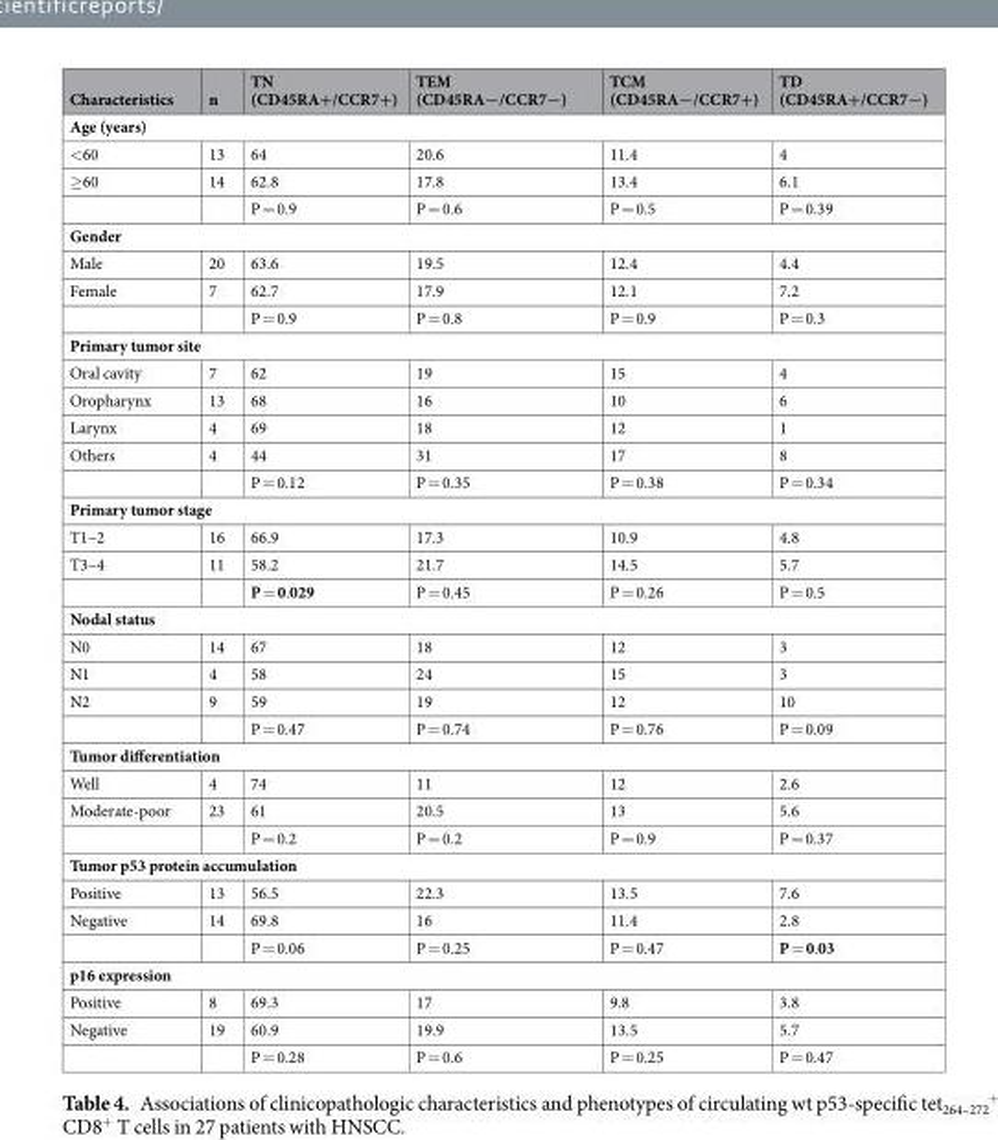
<table><thead><tr><td>Characteristics</td><td>n</td><td>TN (CD45RA+/CCR7+)</td><td>TEM (CD45RA−/CCR7−)</td><td>TCM (CD45RA−/CCR7+)</td><td>TD (CD45RA+/CCR7−)</td></tr></thead><tbody><tr><td colspan="6">Age (years)</td></tr><tr><td>&lt;60</td><td>13</td><td>64</td><td>20.6</td><td>11.4</td><td>4</td></tr><tr><td rowspan="2">≥60</td><td>14</td><td>62.8</td><td>17.8</td><td>13.4</td><td>6.1</td></tr><tr><td></td><td>P = 0.9</td><td>P = 0.6</td><td>P = 0.5</td><td>P = 0.39</td></tr><tr><td colspan="6">Gender</td></tr><tr><td>Male</td><td>20</td><td>63.6</td><td>19.5</td><td>12.4</td><td>4.4</td></tr><tr><td rowspan="2">Female</td><td>7</td><td>62.7</td><td>17.9</td><td>12.1</td><td>7.2</td></tr><tr><td></td><td>P = 0.9</td><td>P = 0.8</td><td>P = 0.9</td><td>P = 0.3</td></tr><tr><td colspan="6">Primary tumor site</td></tr><tr><td>Oral cavity</td><td>7</td><td>62</td><td>19</td><td>15</td><td>4</td></tr><tr><td>Oropharynx</td><td>13</td><td>68</td><td>16</td><td>10</td><td>6</td></tr><tr><td>Larynx</td><td>4</td><td>69</td><td>18</td><td>12</td><td>1</td></tr><tr><td rowspan="2">Others</td><td>4</td><td>44</td><td>31</td><td>17</td><td>8</td></tr><tr><td></td><td>P = 0.12</td><td>P = 0.35</td><td>P = 0.38</td><td>P = 0.34</td></tr><tr><td colspan="6">Primary tumor stage</td></tr><tr><td>T1–2</td><td>16</td><td>66.9</td><td>17.3</td><td>10.9</td><td>4.8</td></tr><tr><td rowspan="2">T3–4</td><td>11</td><td>58.2</td><td>21.7</td><td>14.5</td><td>5.7</td></tr><tr><td></td><td>P = 0.029</td><td>P = 0.45</td><td>P = 0.26</td><td>P = 0.5</td></tr><tr><td colspan="6">Nodal status</td></tr><tr><td>N0</td><td>14</td><td>67</td><td>18</td><td>12</td><td>3</td></tr><tr><td>N1</td><td>4</td><td>58</td><td>24</td><td>15</td><td>3</td></tr><tr><td rowspan="2">N2</td><td>9</td><td>59</td><td>19</td><td>12</td><td>10</td></tr><tr><td></td><td>P = 0.47</td><td>P = 0.74</td><td>P = 0.76</td><td>P = 0.09</td></tr><tr><td colspan="6">Tumor differentiation</td></tr><tr><td>Well</td><td>4</td><td>74</td><td>11</td><td>12</td><td>2.6</td></tr><tr><td rowspan="2">Moderate-poor</td><td>23</td><td>61</td><td>20.5</td><td>13</td><td>5.6</td></tr><tr><td></td><td>P = 0.2</td><td>P = 0.2</td><td>P = 0.9</td><td>P = 0.37</td></tr><tr><td colspan="6">Tumor p53 protein accumulation</td></tr><tr><td>Positive</td><td>13</td><td>56.5</td><td>22.3</td><td>13.5</td><td>7.6</td></tr><tr><td rowspan="2">Negative</td><td>14</td><td>69.8</td><td>16</td><td>11.4</td><td>2.8</td></tr><tr><td></td><td>P = 0.06</td><td>P = 0.25</td><td>P = 0.47</td><td>P = 0.03</td></tr><tr><td colspan="6">p16 expression</td></tr><tr><td>Positive</td><td>8</td><td>69.3</td><td>17</td><td>9.8</td><td>3.8</td></tr><tr><td rowspan="2">Negative</td><td>19</td><td>60.9</td><td>19.9</td><td>13.5</td><td>5.7</td></tr><tr><td></td><td>P = 0.28</td><td>P = 0.6</td><td>P = 0.25</td><td>P = 0.47</td></tr></tbody></table>